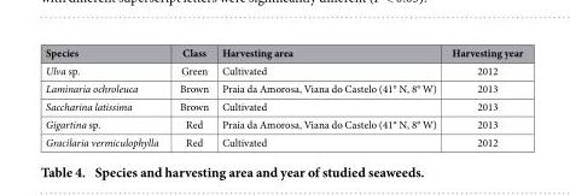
<table><thead><tr><td>Species</td><td>Class</td><td>Harvesting area</td><td>Harvesting year</td></tr></thead><tbody><tr><td>Ulva sp.</td><td>Green</td><td>Cultivated</td><td>2012</td></tr><tr><td>Laminaria ochroleuca</td><td>Brown</td><td>Praia da Amorosa, Viana do Castelo (41° N, 8° W)</td><td>2013</td></tr><tr><td>Saccharina latissima</td><td>Brown</td><td>Cultivated</td><td>2013</td></tr><tr><td>Gigartina sp.</td><td>Red</td><td>Praia da Amorosa, Viana do Castelo (41° N, 8° W)</td><td>2013</td></tr><tr><td>Gracilaria vermiculophylla</td><td>Red</td><td>Cultivated</td><td>2012</td></tr></tbody></table>